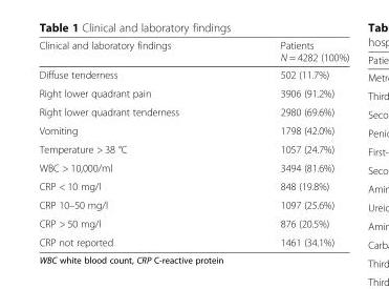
<table><thead><tr><td>Clinical and laboratory findings</td><td>Patients N = 4282 (100%)</td></tr></thead><tbody><tr><td>Diffuse tenderness</td><td>502 (11.7%)</td></tr><tr><td>Right lower quadrant pain</td><td>3906 (91.2%)</td></tr><tr><td>Right lower quadrant tenderness</td><td>2980 (69.6%)</td></tr><tr><td>Vomiting</td><td>1798 (42.0%)</td></tr><tr><td>Temperature &gt; 38 °C</td><td>1057 (24.7%)</td></tr><tr><td>WBC &gt; 10,000/ml</td><td>3494 (81.6%)</td></tr><tr><td>CRP &lt; 10 mg/l</td><td>848 (19.8%)</td></tr><tr><td>CRP 10–50 mg/l</td><td>1097 (25.6%)</td></tr><tr><td>CRP &gt; 50 mg/l</td><td>876 (20.5%)</td></tr><tr><td>CRP not reported</td><td>1461 (34.1%)</td></tr></tbody></table>